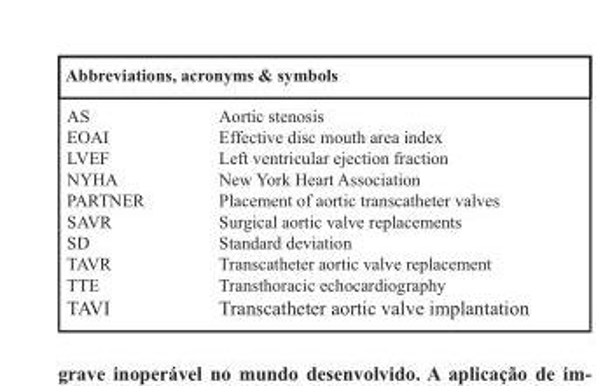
<table><thead><tr><td colspan="2">Abbreviations, acronyms &amp; symbols</td></tr><tr><td>AS</td><td>Aortic stenosis</td></tr></thead><tbody><tr><td>EOAI</td><td>Effective disc mouth area index</td></tr><tr><td>LVEF</td><td>Left ventricular ejection fraction</td></tr><tr><td>NYHA</td><td>New York Heart Association</td></tr><tr><td>PARTNER</td><td>Placement of aortic transcatheter valves</td></tr><tr><td>SAVR</td><td>Surgical aortic valve replacements</td></tr><tr><td>SD</td><td>Standard deviation</td></tr><tr><td>TAVR</td><td>Transcatheter aortic valve replacement</td></tr><tr><td>TTE</td><td>Transthoracic echocardiography</td></tr><tr><td>TAVI</td><td>Transcatheter aortic valve implantation</td></tr></tbody></table>